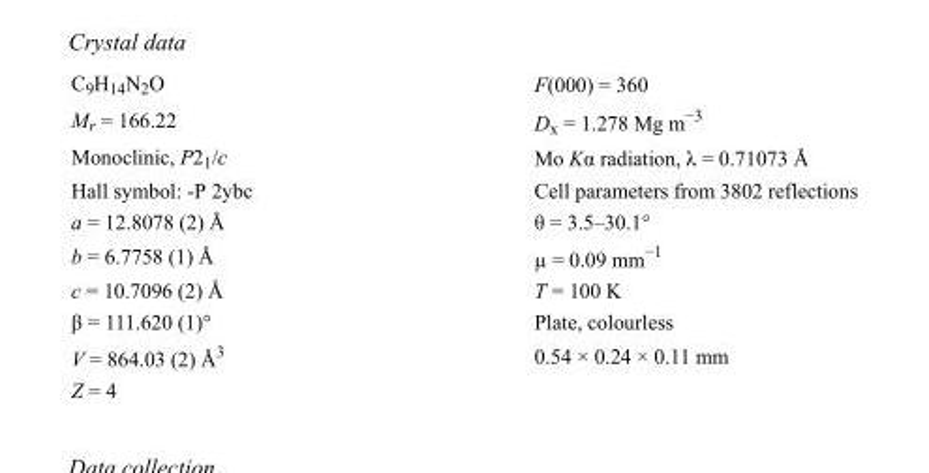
<table><tbody><tr><td>C<sub>9</sub>H<sub>14</sub>N<sub>2</sub>O</td><td>F(000) = 360</td></tr><tr><td>M<sub>r</sub> = 166.22</td><td>D<sub>x</sub> = 1.278 Mg m<sup>−3</sup></td></tr><tr><td>Monoclinic, P2<sub>1</sub>/c</td><td>Mo Kα radiation, λ = 0.71073 Å</td></tr><tr><td>Hall symbol: -P 2ybc</td><td>Cell parameters from 3802 reflections</td></tr><tr><td>a = 12.8078 (2) Å</td><td>θ = 3.5–30.1°</td></tr><tr><td>b = 6.7758 (1) Å</td><td>µ = 0.09 mm<sup>−1</sup></td></tr><tr><td>c = 10.7096 (2) Å</td><td>T = 100 K</td></tr><tr><td>β = 111.620 (1)°</td><td>Plate, colourless</td></tr><tr><td>V = 864.03 (2) Å<sup>3</sup></td><td>0.54 × 0.24 × 0.11 mm</td></tr><tr><td>Z = 4</td><td></td></tr></tbody></table>